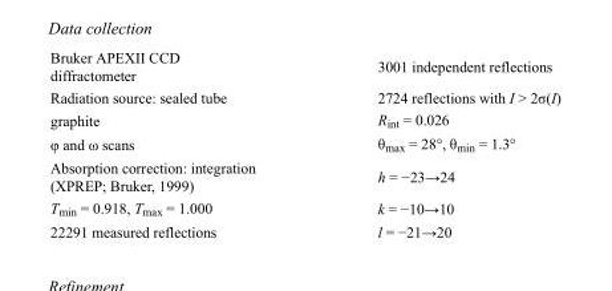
<table><tbody><tr><td>Bruker APEXII CCD diffractometer</td><td>3001 independent reflections</td></tr><tr><td>Radiation source: sealed tube</td><td>2724 reflections with I &gt; 2σ(I)</td></tr><tr><td>graphite</td><td>R<sub>int</sub> = 0.026</td></tr><tr><td>φ and ω scans</td><td>θ<sub>max</sub> = 28°, θ<sub>min</sub> = 1.3°</td></tr><tr><td>Absorption correction: integration (XPREP; Bruker, 1999)</td><td>h = −23→24</td></tr><tr><td>T<sub>min</sub> = 0.918, T<sub>max</sub> = 1.000</td><td>k = −10→10</td></tr><tr><td>22291 measured reflections</td><td>l = −21→20</td></tr></tbody></table>